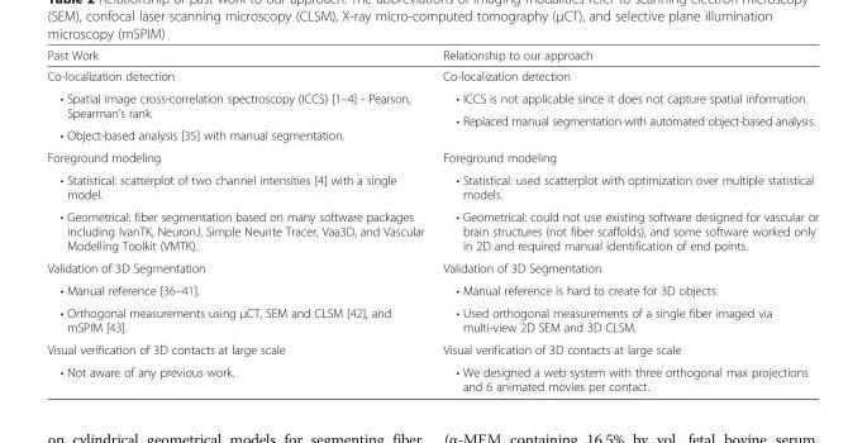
<table><thead><tr><td>Past Work</td><td>Relationship to our approach</td></tr></thead><tbody><tr><td>Co-localization detection</td><td>Co-localization detection</td></tr><tr><td rowspan="2">• Spatial image cross-correlation spectroscopy (ICCS) [1–4] - Pearson, Spearman’s rank.</td><td>• ICCS is not applicable since it does not capture spatial information.</td></tr><tr><td rowspan="2">• Replaced manual segmentation with automated object-based analysis.</td></tr><tr><td>• Object-based analysis [35] with manual segmentation.</td></tr><tr><td>Foreground modeling</td><td>Foreground modeling</td></tr><tr><td>• Statistical: scatterplot of two channel intensities [4] with a single model.</td><td>• Statistical: used scatterplot with optimization over multiple statistical models.</td></tr><tr><td>• Geometrical: fiber segmentation based on many software packages including IvanTK, NeuronJ, Simple Neurite Tracer, Vaa3D, and Vascular Modelling Toolkit (VMTK).</td><td>• Geometrical: could not use existing software designed for vascular or brain structures (not fiber scaffolds), and some software worked only in 2D and required manual identification of end points.</td></tr><tr><td>Validation of 3D Segmentation</td><td>Validation of 3D Segmentation</td></tr><tr><td>• Manual reference [36–41].</td><td>• Manual reference is hard to create for 3D objects.</td></tr><tr><td>• Orthogonal measurements using μCT, SEM and CLSM [42], and mSPIM [43].</td><td>• Used orthogonal measurements of a single fiber imaged via multi-view 2D SEM and 3D CLSM.</td></tr><tr><td>Visual verification of 3D contacts at large scale</td><td>Visual verification of 3D contacts at large scale</td></tr><tr><td>• Not aware of any previous work.</td><td>• We designed a web system with three orthogonal max projections and 6 animated movies per contact.</td></tr></tbody></table>